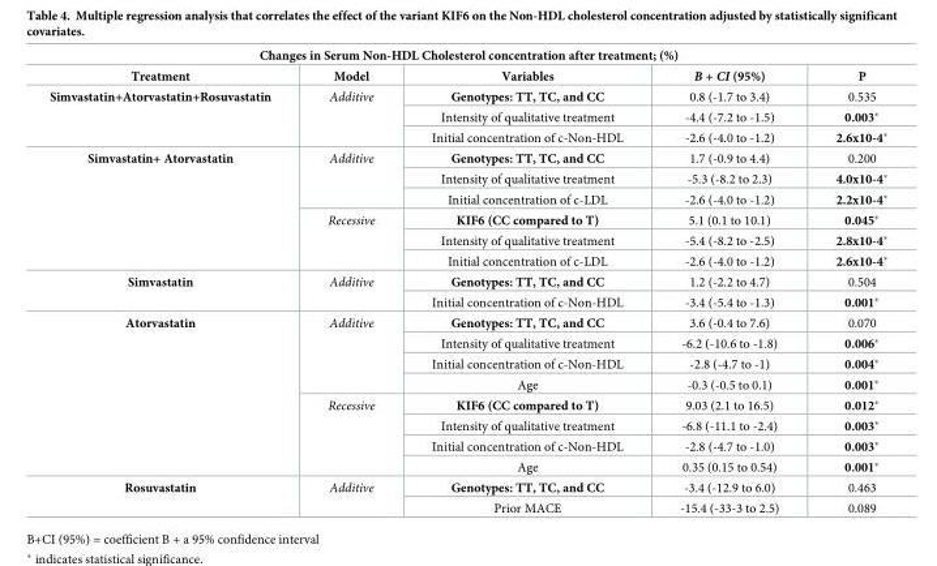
<table><thead><tr><td colspan="5">Changes in Serum Non-HDL Cholesterol concentration after treatment; (%)</td></tr><tr><td>Treatment</td><td>Model</td><td>Variables</td><td>B + CI (95%)</td><td>P</td></tr></thead><tbody><tr><td rowspan="3">Simvastatin+Atorvastatin+Rosuvastatin</td><td rowspan="3">Additive</td><td>Genotypes: TT, TC, and CC</td><td>0.8 (-1.7 to 3.4)</td><td>0.535</td></tr><tr><td>Intensity of qualitative treatment</td><td>-4.4 (-7.2 to -1.5)</td><td>0.003*</td></tr><tr><td>Initial concentration of c-Non-HDL</td><td>-2.6 (-4.0 to -1.2)</td><td>2.6x10-4*</td></tr><tr><td rowspan="6">Simvastatin+ Atorvastatin</td><td rowspan="3">Additive</td><td>Genotypes: TT, TC, and CC</td><td>1.7 (-0.9 to 4.4)</td><td>0.200</td></tr><tr><td>Intensity of qualitative treatment</td><td>-5.3 (-8.2 to 2.3)</td><td>4.0x10-4*</td></tr><tr><td>Initial concentration of c-LDL</td><td>-2.6 (-4.0 to -1.2)</td><td>2.2x10-4*</td></tr><tr><td rowspan="3">Recessive</td><td>KIF6 (CC compared to T)</td><td>5.1 (0.1 to 10.1)</td><td>0.045*</td></tr><tr><td>Intensity of qualitative treatment</td><td>-5.4 (-8.2 to -2.5)</td><td>2.8x10-4*</td></tr><tr><td>Initial concentration of c-LDL</td><td>-2.6 (-4.0 to -1.2)</td><td>2.6x10-4*</td></tr><tr><td rowspan="2">Simvastatin</td><td rowspan="2">Additive</td><td>Genotypes: TT, TC, and CC</td><td>1.2 (-2.2 to 4.7)</td><td>0.504</td></tr><tr><td>Initial concentration of c-Non-HDL</td><td>-3.4 (-5.4 to -1.3)</td><td>0.001*</td></tr><tr><td rowspan="8">Atorvastatin</td><td rowspan="4">Additive</td><td>Genotypes: TT, TC, and CC</td><td>3.6 (-0.4 to 7.6)</td><td>0.070</td></tr><tr><td>Intensity of qualitative treatment</td><td>-6.2 (-10.6 to -1.8)</td><td>0.006*</td></tr><tr><td>Initial concentration of c-Non-HDL</td><td>-2.8 (-4.7 to -1)</td><td>0.004*</td></tr><tr><td>Age</td><td>-0.3 (-0.5 to 0.1)</td><td>0.001*</td></tr><tr><td rowspan="4">Recessive</td><td>KIF6 (CC compared to T)</td><td>9.03 (2.1 to 16.5)</td><td>0.012*</td></tr><tr><td>Intensity of qualitative treatment</td><td>-6.8 (-11.1 to -2.4)</td><td>0.003*</td></tr><tr><td>Initial concentration of c-Non-HDL</td><td>-2.8 (-4.7 to -1.0)</td><td>0.003*</td></tr><tr><td>Age</td><td>0.35 (0.15 to 0.54)</td><td>0.001*</td></tr><tr><td rowspan="2">Rosuvastatin</td><td rowspan="2">Additive</td><td>Genotypes: TT, TC, and CC</td><td>-3.4 (-12.9 to 6.0)</td><td>0.463</td></tr><tr><td>Prior MACE</td><td>-15.4 (-33-3 to 2.5)</td><td>0.089</td></tr></tbody></table>